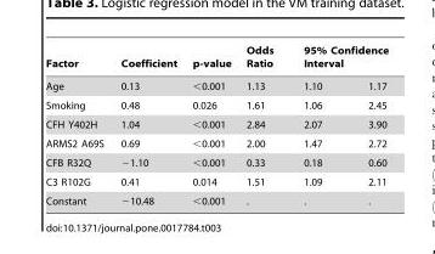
<table><thead><tr><td rowspan="2">Factor Age</td><td rowspan="2">Coefficient 0.13</td><td rowspan="2">p-value &lt;0.001</td><td rowspan="2">Odds Ratio 1.13</td><td colspan="2">95% Confidence Interval</td></tr><tr><td>1.10</td><td>1.17</td></tr></thead><tbody><tr><td>Smoking</td><td>0.48</td><td>0.026</td><td>1.61</td><td>1.06</td><td>2.45</td></tr><tr><td>CFH Y402H</td><td>1.04</td><td>&lt;0.001</td><td>2.84</td><td>2.07</td><td>3.90</td></tr><tr><td>ARMS2 A69S</td><td>0.69</td><td>&lt;0.001</td><td>2.00</td><td>1.47</td><td>2.72</td></tr><tr><td>CFB R32Q</td><td>−1.10</td><td>&lt;0.001</td><td>0.33</td><td>0.18</td><td>0.60</td></tr><tr><td>C3 R102G</td><td>0.41</td><td>0.014</td><td>1.51</td><td>1.09</td><td>2.11</td></tr><tr><td>Constant</td><td>−10.48</td><td>&lt;0.001</td><td>.</td><td>.</td><td>.</td></tr></tbody></table>